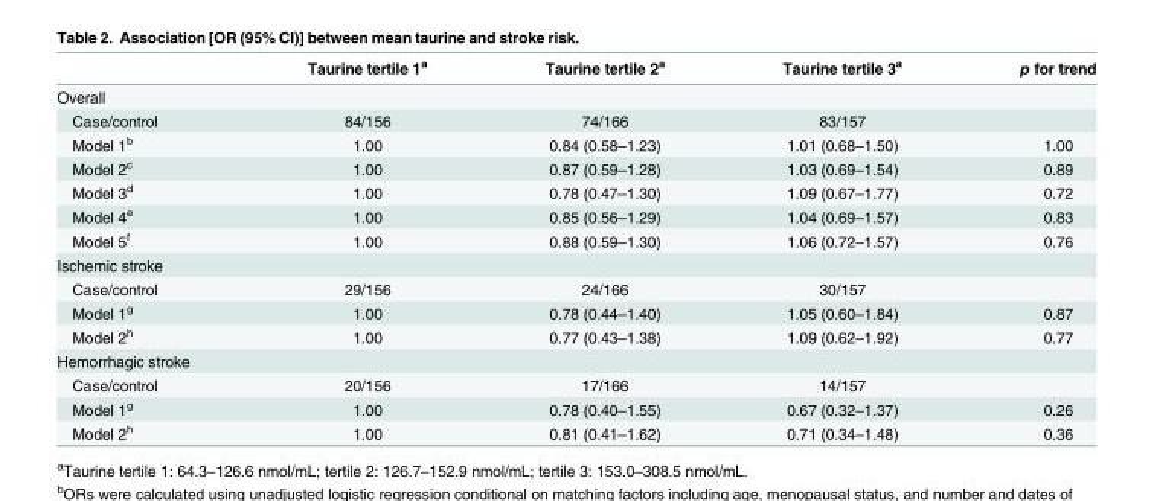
<table><thead><tr><td></td><td>Taurine tertile 1<sup>a</sup></td><td>Taurine tertile 2<sup>a</sup></td><td>Taurine tertile 3<sup>a</sup></td><td>p for trend</td></tr></thead><tbody><tr><td colspan="5">Overall</td></tr><tr><td>Case/control</td><td>84/156</td><td>74/166</td><td>83/157</td><td></td></tr><tr><td>Model 1<sup>b</sup></td><td>1.00</td><td>0.84 (0.58–1.23)</td><td>1.01 (0.68–1.50)</td><td>1.00</td></tr><tr><td>Model 2<sup>c</sup></td><td>1.00</td><td>0.87 (0.59–1.28)</td><td>1.03 (0.69–1.54)</td><td>0.89</td></tr><tr><td>Model 3<sup>d</sup></td><td>1.00</td><td>0.78 (0.47–1.30)</td><td>1.09 (0.67–1.77)</td><td>0.72</td></tr><tr><td>Model 4<sup>e</sup></td><td>1.00</td><td>0.85 (0.56–1.29)</td><td>1.04 (0.69–1.57)</td><td>0.83</td></tr><tr><td>Model 5<sup>f</sup></td><td>1.00</td><td>0.88 (0.59–1.30)</td><td>1.06 (0.72–1.57)</td><td>0.76</td></tr><tr><td colspan="5">Ischemic stroke</td></tr><tr><td>Case/control</td><td>29/156</td><td>24/166</td><td>30/157</td><td></td></tr><tr><td>Model 1<sup>g</sup></td><td>1.00</td><td>0.78 (0.44–1.40)</td><td>1.05 (0.60–1.84)</td><td>0.87</td></tr><tr><td>Model 2<sup>h</sup></td><td>1.00</td><td>0.77 (0.43–1.38)</td><td>1.09 (0.62–1.92)</td><td>0.77</td></tr><tr><td colspan="5">Hemorrhagic stroke</td></tr><tr><td>Case/control</td><td>20/156</td><td>17/166</td><td>14/157</td><td></td></tr><tr><td>Model 1<sup>g</sup></td><td>1.00</td><td>0.78 (0.40–1.55)</td><td>0.67 (0.32–1.37)</td><td>0.26</td></tr><tr><td>Model 2<sup>h</sup></td><td>1.00</td><td>0.81 (0.41–1.62)</td><td>0.71 (0.34–1.48)</td><td>0.36</td></tr></tbody></table>